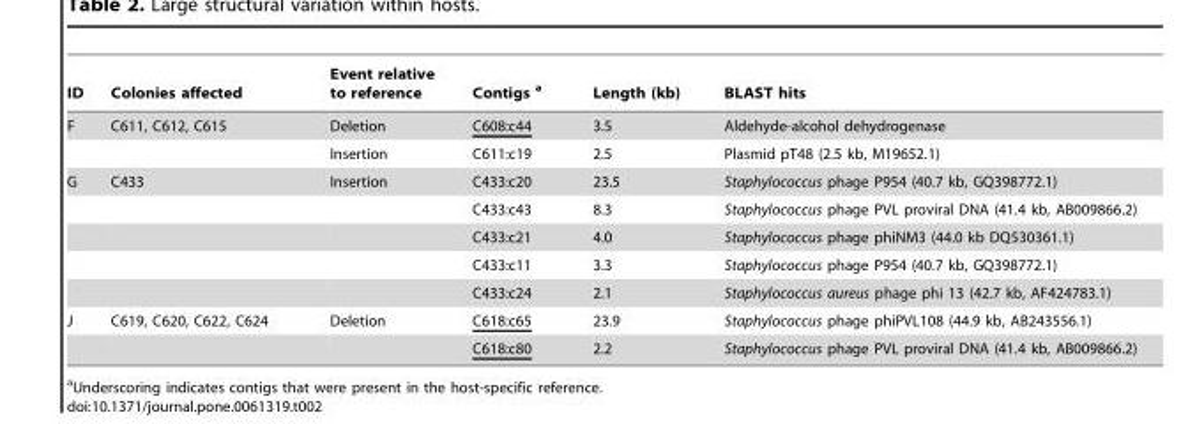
<table><thead><tr><td>ID</td><td>Colonies affected</td><td>Event relative to reference</td><td>Contigs a</td><td>Length (kb)</td><td>BLAST hits</td></tr></thead><tbody><tr><td rowspan="2">F</td><td>C611, C612, C615</td><td>Deletion</td><td>C608:c44</td><td>3.5</td><td>Aldehyde-alcohol dehydrogenase</td></tr><tr><td></td><td>Insertion</td><td>C611:c19</td><td>2.5</td><td>Plasmid pT48 (2.5 kb, M19652.1)</td></tr><tr><td rowspan="5">G</td><td>C433</td><td>Insertion</td><td>C433:c20</td><td>23.5</td><td>Staphylococcus phage P954 (40.7 kb, GQ398772.1)</td></tr><tr><td></td><td></td><td>C433:c43</td><td>8.3</td><td>Staphylococcus phage PVL proviral DNA (41.4 kb, AB009866.2)</td></tr><tr><td></td><td></td><td>C433:c21</td><td>4.0</td><td>Staphylococcus phage phiNM3 (44.0 kb DQ530361.1)</td></tr><tr><td></td><td></td><td>C433:c11</td><td>3.3</td><td>Staphylococcus phage P954 (40.7 kb, GQ398772.1)</td></tr><tr><td></td><td></td><td>C433:c24</td><td>2.1</td><td>Staphylococcus aureus phage phi 13 (42.7 kb, AF424783.1)</td></tr><tr><td rowspan="2">J</td><td>C619, C620, C622, C624</td><td>Deletion</td><td>C618:c65</td><td>23.9</td><td>Staphylococcus phage phiPVL108 (44.9 kb, AB243556.1)</td></tr><tr><td></td><td></td><td>C618:c80</td><td>2.2</td><td>Staphylococcus phage PVL proviral DNA (41.4 kb, AB009866.2)</td></tr></tbody></table>